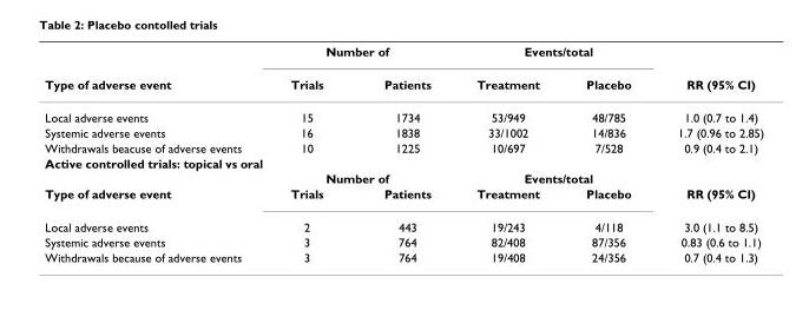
<table><thead><tr><td rowspan="2">Type of adverse event</td><td colspan="2">Number of</td><td colspan="2">Events/total</td><td rowspan="2">RR (95% CI)</td></tr><tr><td>Trials</td><td>Patients</td><td>Treatment</td><td>Placebo</td></tr></thead><tbody><tr><td>Local adverse events</td><td>15</td><td>1734</td><td>53/949</td><td>48/785</td><td>1.0 (0.7 to 1.4)</td></tr><tr><td>Systemic adverse events</td><td>16</td><td>1838</td><td>33/1002</td><td>14/836</td><td>1.7 (0.96 to 2.85)</td></tr><tr><td>Withdrawals beacuse of adverse events</td><td>10</td><td>1225</td><td>10/697</td><td>7/528</td><td>0.9 (0.4 to 2.1)</td></tr><tr><td colspan="6">Active controlled trials: topical vs oral</td></tr><tr><td></td><td colspan="2">Number of</td><td colspan="2">Events/total</td><td></td></tr><tr><td>Type of adverse event</td><td>Trials</td><td>Patients</td><td>Treatment</td><td>Placebo</td><td>RR (95% CI)</td></tr><tr><td>Local adverse events</td><td>2</td><td>443</td><td>19/243</td><td>4/118</td><td>3.0 (1.1 to 8.5)</td></tr><tr><td>Systemic adverse events</td><td>3</td><td>764</td><td>82/408</td><td>87/356</td><td>0.83 (0.6 to 1.1)</td></tr><tr><td>Withdrawals because of adverse events</td><td>3</td><td>764</td><td>19/408</td><td>24/356</td><td>0.7 (0.4 to 1.3)</td></tr></tbody></table>